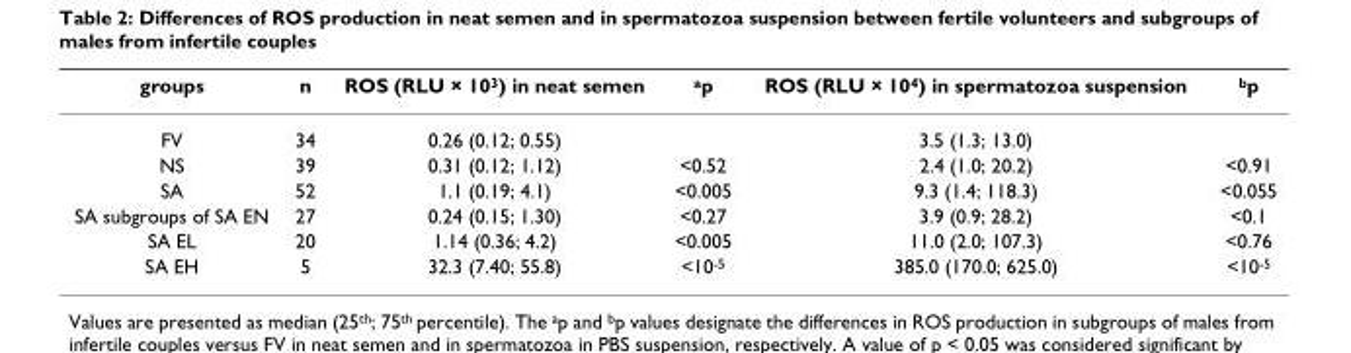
<table><thead><tr><td>groups</td><td>n</td><td>ROS (RLU × 10<sup>3</sup>) in neat semen</td><td><sup>a</sup>p</td><td>ROS (RLU × 10<sup>4</sup>) in spermatozoa suspension</td><td><sup>b</sup>p</td></tr></thead><tbody><tr><td>FV</td><td>34</td><td>0.26 (0.12; 0.55)</td><td></td><td>3.5 (1.3; 13.0)</td><td></td></tr><tr><td>NS</td><td>39</td><td>0.31 (0.12; 1.12)</td><td>&lt;0.52</td><td>2.4 (1.0; 20.2)</td><td>&lt;0.91</td></tr><tr><td>SA</td><td>52</td><td>1.1 (0.19; 4.1)</td><td>&lt;0.005</td><td>9.3 (1.4; 118.3)</td><td>&lt;0.055</td></tr><tr><td>SA subgroups of SA EN</td><td>27</td><td>0.24 (0.15; 1.30)</td><td>&lt;0.27</td><td>3.9 (0.9; 28.2)</td><td>&lt;0.1</td></tr><tr><td>SA EL</td><td>20</td><td>1.14 (0.36; 4.2)</td><td>&lt;0.005</td><td>11.0 (2.0; 107.3)</td><td>&lt;0.76</td></tr><tr><td>SA EH</td><td>5</td><td>32.3 (7.40; 55.8)</td><td>&lt;10<sup>-5</sup></td><td>385.0 (170.0; 625.0)</td><td>&lt;10<sup>-5</sup></td></tr></tbody></table>